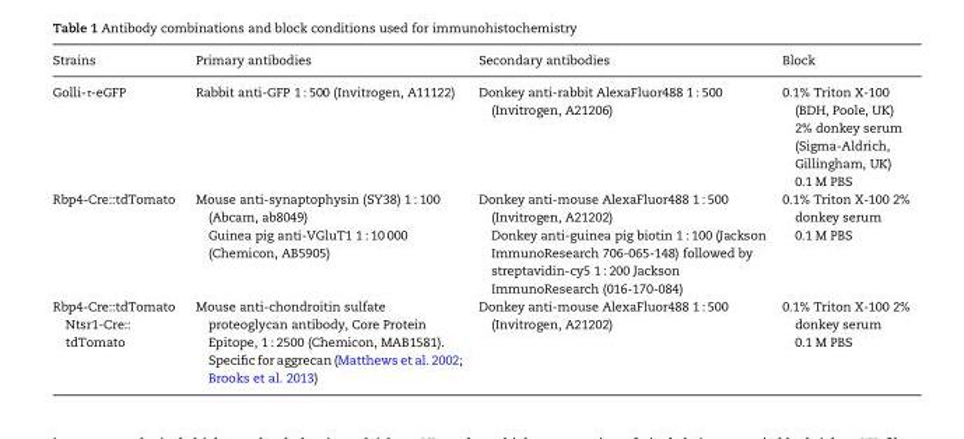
<table><thead><tr><td>Strains</td><td>Primary antibodies</td><td>Secondary antibodies</td><td>Block</td></tr></thead><tbody><tr><td>Golli-τ-eGFP</td><td>Rabbit anti-GFP 1 : 500 (Invitrogen, A11122)</td><td>Donkey anti-rabbit AlexaFluor488 1 : 500 (Invitrogen, A21206)</td><td>0.1% Triton X-100 (BDH, Poole, UK) 2% donkey serum (Sigma-Aldrich, Gillingham, UK) 0.1 M PBS</td></tr><tr><td>Rbp4-Cre::tdTomato</td><td>Mouse anti-synaptophysin (SY38) 1 : 100 (Abcam, ab8049) Guinea pig anti-VGluT1 1 : 10 000 (Chemicon, AB5905)</td><td>Donkey anti-mouse AlexaFluor488 1 : 500 (Invitrogen, A21202) Donkey anti-guinea pig biotin 1 : 100 (Jackson ImmunoResearch 706-065-148) followed by streptavidin-cy5 1 : 200 Jackson ImmunoResearch (016-170-084)</td><td>0.1% Triton X-100 2% donkey serum 0.1 M PBS</td></tr><tr><td>Rbp4-Cre::tdTomato Ntsr1-Cre:: tdTomato</td><td>Mouse anti-chondroitin sulfate proteoglycan antibody, Core Protein Epitope, 1 : 2500 (Chemicon, MAB1581). Specific for aggrecan (Matthews et al. 2002; Brooks et al. 2013)</td><td>Donkey anti-mouse AlexaFluor488 1 : 500 (Invitrogen, A21202)</td><td>0.1% Triton X-100 2% donkey serum 0.1 M PBS</td></tr></tbody></table>